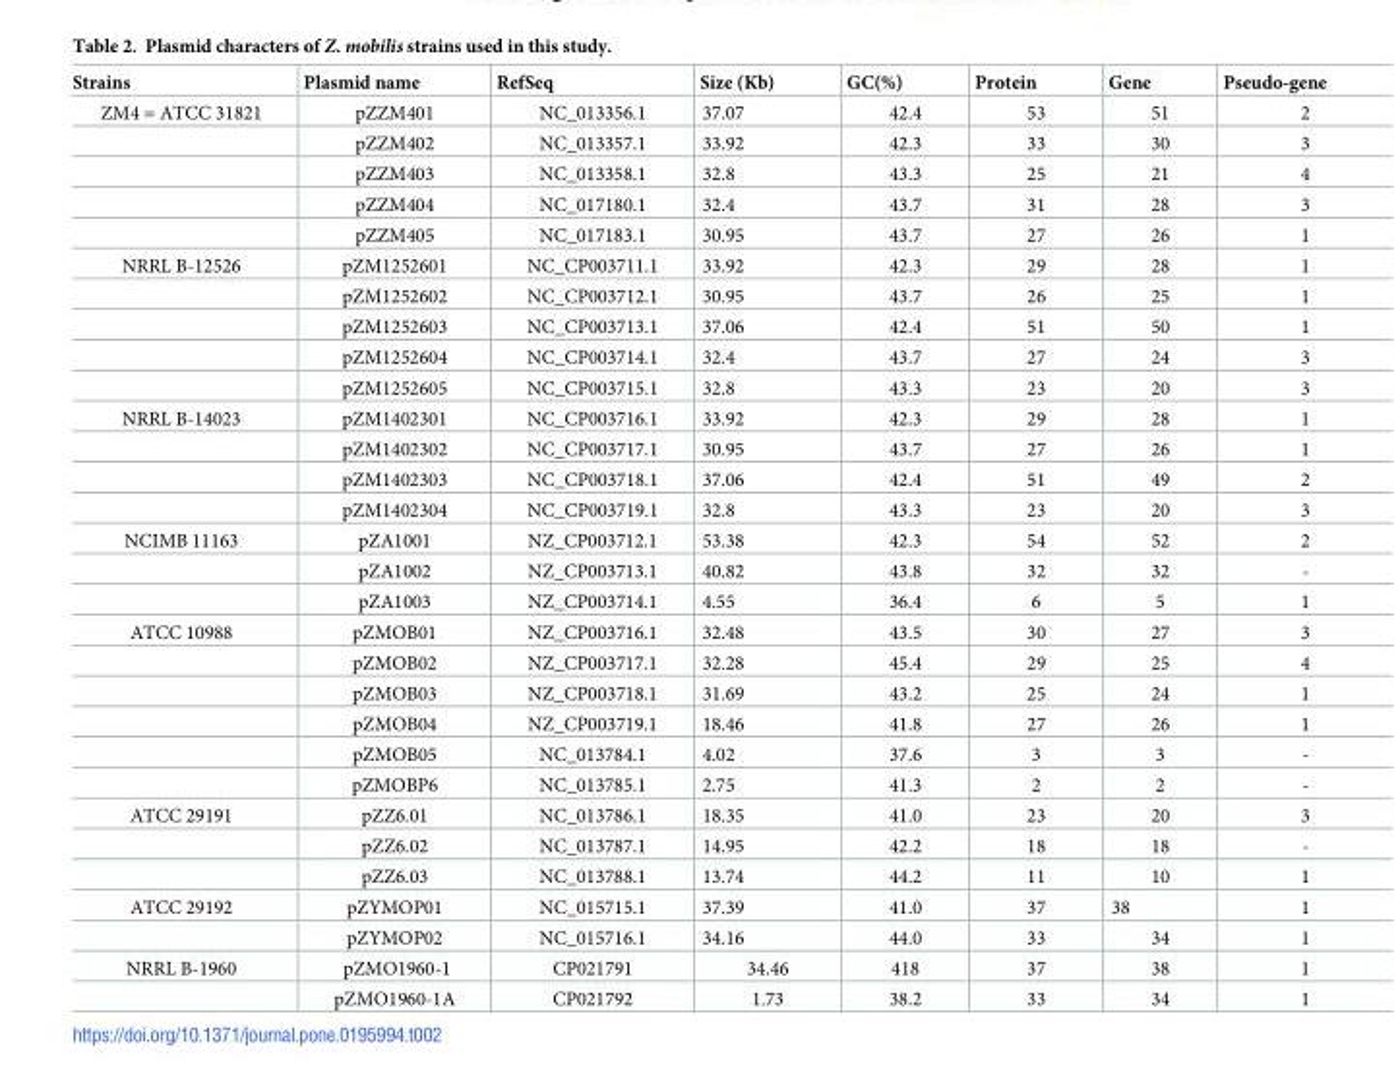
<table><thead><tr><td>Strains</td><td>Plasmid name</td><td>RefSeq</td><td>Size (Kb)</td><td>GC(%)</td><td>Protein</td><td>Gene</td><td>Pseudo-gene</td></tr></thead><tbody><tr><td rowspan="5">ZM4 = ATCC 31821</td><td>pZZM401</td><td>NC_013356.1</td><td>37.07</td><td>42.4</td><td>53</td><td>51</td><td>2</td></tr><tr><td>pZZM402</td><td>NC_013357.1</td><td>33.92</td><td>42.3</td><td>33</td><td>30</td><td>3</td></tr><tr><td>pZZM403</td><td>NC_013358.1</td><td>32.8</td><td>43.3</td><td>25</td><td>21</td><td>4</td></tr><tr><td>pZZM404</td><td>NC_017180.1</td><td>32.4</td><td>43.7</td><td>31</td><td>28</td><td>3</td></tr><tr><td>pZZM405</td><td>NC_017183.1</td><td>30.95</td><td>43.7</td><td>27</td><td>26</td><td>1</td></tr><tr><td rowspan="5">NRRL B-12526</td><td>pZM1252601</td><td>NC_CP003711.1</td><td>33.92</td><td>42.3</td><td>29</td><td>28</td><td>1</td></tr><tr><td>pZM1252602</td><td>NC_CP003712.1</td><td>30.95</td><td>43.7</td><td>26</td><td>25</td><td>1</td></tr><tr><td>pZM1252603</td><td>NC_CP003713.1</td><td>37.06</td><td>42.4</td><td>51</td><td>50</td><td>1</td></tr><tr><td>pZM1252604</td><td>NC_CP003714.1</td><td>32.4</td><td>43.7</td><td>27</td><td>24</td><td>3</td></tr><tr><td>pZM1252605</td><td>NC_CP003715.1</td><td>32.8</td><td>43.3</td><td>23</td><td>20</td><td>3</td></tr><tr><td rowspan="4">NRRL B-14023</td><td>pZM1402301</td><td>NC_CP003716.1</td><td>33.92</td><td>42.3</td><td>29</td><td>28</td><td>1</td></tr><tr><td>pZM1402302</td><td>NC_CP003717.1</td><td>30.95</td><td>43.7</td><td>27</td><td>26</td><td>1</td></tr><tr><td>pZM1402303</td><td>NC_CP003718.1</td><td>37.06</td><td>42.4</td><td>51</td><td>49</td><td>2</td></tr><tr><td>pZM1402304</td><td>NC_CP003719.1</td><td>32.8</td><td>43.3</td><td>23</td><td>20</td><td>3</td></tr><tr><td rowspan="3">NCIMB 11163</td><td>pZA1001</td><td>NZ_CP003712.1</td><td>53.38</td><td>42.3</td><td>54</td><td>52</td><td>2</td></tr><tr><td>pZA1002</td><td>NZ_CP003713.1</td><td>40.82</td><td>43.8</td><td>32</td><td>32</td><td>-</td></tr><tr><td>pZA1003</td><td>NZ_CP003714.1</td><td>4.55</td><td>36.4</td><td>6</td><td>5</td><td>1</td></tr><tr><td rowspan="6">ATCC 10988</td><td>pZMOB01</td><td>NZ_CP003716.1</td><td>32.48</td><td>43.5</td><td>30</td><td>27</td><td>3</td></tr><tr><td>pZMOB02</td><td>NZ_CP003717.1</td><td>32.28</td><td>45.4</td><td>29</td><td>25</td><td>4</td></tr><tr><td>pZMOB03</td><td>NZ_CP003718.1</td><td>31.69</td><td>43.2</td><td>25</td><td>24</td><td>1</td></tr><tr><td>pZMOB04</td><td>NZ_CP003719.1</td><td>18.46</td><td>41.8</td><td>27</td><td>26</td><td>1</td></tr><tr><td>pZMOB05</td><td>NC_013784.1</td><td>4.02</td><td>37.6</td><td>3</td><td>3</td><td>-</td></tr><tr><td>pZMOBP6</td><td>NC_013785.1</td><td>2.75</td><td>41.3</td><td>2</td><td>2</td><td>-</td></tr><tr><td rowspan="3">ATCC 29191</td><td>pZZ6.01</td><td>NC_013786.1</td><td>18.35</td><td>41.0</td><td>23</td><td>20</td><td>3</td></tr><tr><td>pZZ6.02</td><td>NC_013787.1</td><td>14.95</td><td>42.2</td><td>18</td><td>18</td><td>-</td></tr><tr><td>pZZ6.03</td><td>NC_013788.1</td><td>13.74</td><td>44.2</td><td>11</td><td>10</td><td>1</td></tr><tr><td rowspan="2">ATCC 29192</td><td>pZYMOP01</td><td>NC_015715.1</td><td>37.39</td><td>41.0</td><td>37</td><td>38</td><td>1</td></tr><tr><td>pZYMOP02</td><td>NC_015716.1</td><td>34.16</td><td>44.0</td><td>33</td><td>34</td><td>1</td></tr><tr><td rowspan="2">NRRL B-1960</td><td>pZMO1960-1</td><td>CP021791</td><td>34.46</td><td>418</td><td>37</td><td>38</td><td>1</td></tr><tr><td>pZMO1960-1A</td><td>CP021792</td><td>1.73</td><td>38.2</td><td>33</td><td>34</td><td>1</td></tr></tbody></table>